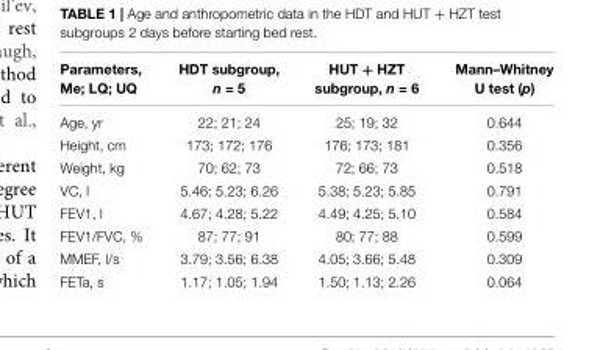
<table><thead><tr><td>Parameters, Me; LQ; UQ</td><td>HDT subgroup, n = 5</td><td>HUT + HZT subgroup, n = 6</td><td>Mann–Whitney U test (p)</td></tr></thead><tbody><tr><td>Age, yr</td><td>22; 21; 24</td><td>25; 19; 32</td><td>0.644</td></tr><tr><td>Height, cm</td><td>173; 172; 176</td><td>176; 173; 181</td><td>0.356</td></tr><tr><td>Weight, kg</td><td>70; 62; 73</td><td>72; 66; 73</td><td>0.518</td></tr><tr><td>VC, l</td><td>5.46; 5.23; 6.26</td><td>5.38; 5.23; 5.85</td><td>0.791</td></tr><tr><td>FEV1, l</td><td>4.67; 4.28; 5.22</td><td>4.49; 4.25; 5.10</td><td>0.584</td></tr><tr><td>FEV1/FVC, %</td><td>87; 77; 91</td><td>80; 77; 88</td><td>0.599</td></tr><tr><td>MMEF, l/s</td><td>3.79; 3.56; 6.38</td><td>4.05; 3.66; 5.48</td><td>0.309</td></tr><tr><td>FETa, s</td><td>1.17; 1.05; 1.94</td><td>1.50; 1.13; 2.26</td><td>0.064</td></tr></tbody></table>